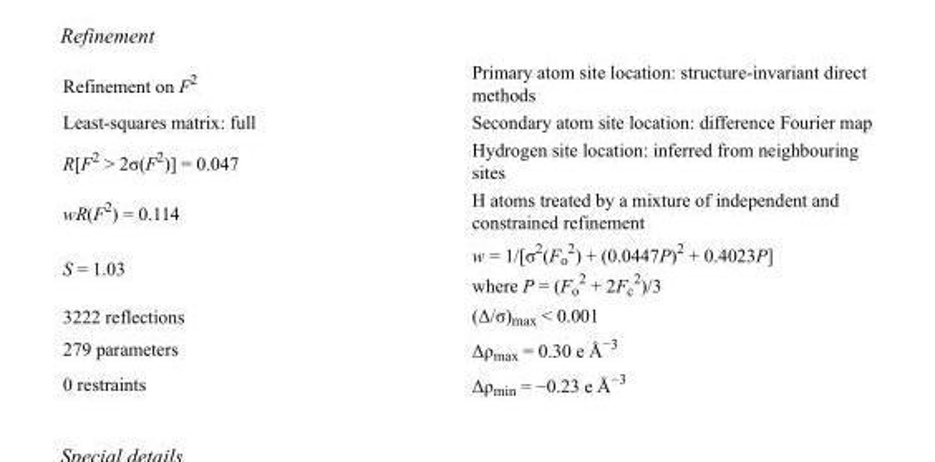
<table><tbody><tr><td>Refinement on F<sup>2</sup></td><td>Primary atom site location: structure-invariant direct methods</td></tr><tr><td>Least-squares matrix: full</td><td>Secondary atom site location: difference Fourier map</td></tr><tr><td>R[F<sup>2</sup> &gt; 2σ(F<sup>2</sup>)] = 0.047</td><td>Hydrogen site location: inferred from neighbouring sites</td></tr><tr><td>wR(F<sup>2</sup>) = 0.114</td><td>H atoms treated by a mixture of independent and constrained refinement</td></tr><tr><td>S = 1.03</td><td>w = 1/[σ<sup>2</sup>(F<sub>o</sub> <sup>2</sup>) + (0.0447P)<sup>2</sup> + 0.4023P] where P = (F<sub>o</sub> <sup>2</sup> + 2F<sub>c</sub> <sup>2</sup>)/3</td></tr><tr><td>3222 reflections</td><td>(Δ/σ)<sub>max</sub> &lt; 0.001</td></tr><tr><td>279 parameters</td><td>Δρ<sub>max</sub> = 0.30 e Å<sup>−3</sup></td></tr><tr><td>0 restraints</td><td>Δρ<sub>min</sub> = −0.23 e Å<sup>−3</sup></td></tr></tbody></table>